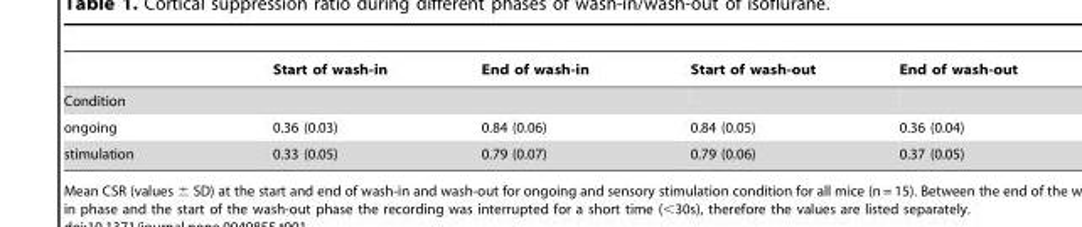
<table><thead><tr><td></td><td>Start of wash-in</td><td>End of wash-in</td><td>Start of wash-out</td><td>End of wash-out</td></tr></thead><tbody><tr><td colspan="5">Condition</td></tr><tr><td>ongoing</td><td>0.36 (0.03)</td><td>0.84 (0.06)</td><td>0.84 (0.05)</td><td>0.36 (0.04)</td></tr><tr><td>stimulation</td><td>0.33 (0.05)</td><td>0.79 (0.07)</td><td>0.79 (0.06)</td><td>0.37 (0.05)</td></tr></tbody></table>